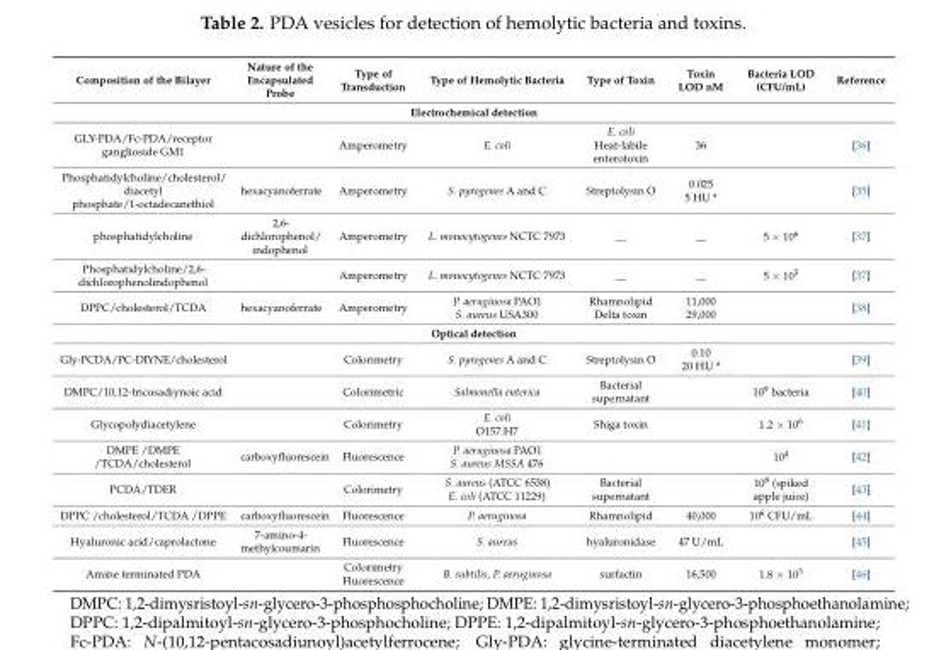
<table><thead><tr><td>Composition of the Bilayer</td><td>Nature of the Encapsulated Probe</td><td>Type of Transduction</td><td>Type of Hemolytic Bacteria</td><td>Type of Toxin</td><td>Toxin LOD nM</td><td>Bacteria LOD (CFU/mL)</td><td>Reference</td></tr></thead><tbody><tr><td colspan="8">Electrochemical detection</td></tr><tr><td>GLY-PDA/Fc-PDA/receptor ganglioside GM1</td><td></td><td>Amperometry</td><td>E. coli</td><td>E. coli Heat-labile enterotoxin</td><td>36</td><td></td><td>[36]</td></tr><tr><td>Phosphatidylcholine/cholesterol/ diacetyl phosphate/1-octadecanethiol</td><td>hexacyanoferrate</td><td>Amperometry</td><td>S. pyrogenes A and C</td><td>Streptolysin O</td><td>0.025 5 HU *</td><td></td><td>[35]</td></tr><tr><td>phosphatidylcholine</td><td>2,6- dichlorophenol/ indophenol</td><td>Amperometry</td><td>L. monocytogenes NCTC 7973</td><td>__</td><td>__</td><td>5 × 10<sup>6</sup></td><td>[37]</td></tr><tr><td>Phosphatidylcholine/2,6- dichlorophenolindophenol</td><td></td><td>Amperometry</td><td>L. monocytogenes NCTC 7973</td><td>__</td><td>__</td><td>5 × 10<sup>5</sup></td><td>[37]</td></tr><tr><td>DPPC/cholesterol/TCDA</td><td>hexacyanoferrate</td><td>Amperometry</td><td>P. aeruginosa PAO1 S. aureus USA300</td><td>Rhamnolipid Delta toxin</td><td>11,000 29,000</td><td></td><td>[38]</td></tr><tr><td colspan="8">Optical detection</td></tr><tr><td>Gly-PCDA/PC-DIYNE/cholesterol</td><td></td><td>Colorimetry</td><td>S. pyrogenes A and C</td><td>Streptolysin O</td><td>0.10 20 HU *</td><td></td><td>[39]</td></tr><tr><td>DMPC/10,12-tricosadiynoic acid</td><td></td><td>Colorimetric</td><td>Salmonella enterica</td><td>Bacterial supernatant</td><td></td><td>10<sup>9</sup> bacteria</td><td>[40]</td></tr><tr><td>Glycopolydiacetylene</td><td></td><td>Colorimetry</td><td>E. coli O157:H7</td><td>Shiga toxin</td><td></td><td>1.2 × 10<sup>6</sup></td><td>[41]</td></tr><tr><td>DMPE /DMPE /TCDA/cholesterol</td><td>carboxyfluorescein</td><td>Fluorescence</td><td>P. aeruginosa PAO1 S. aureus MSSA 476</td><td></td><td></td><td>10<sup>4</sup></td><td>[42]</td></tr><tr><td>PCDA/TDER</td><td></td><td>Colorimetry</td><td>S. aureus (ATCC 6538) E. coli (ATCC 11229)</td><td>Bacterial supernatant</td><td></td><td>10<sup>8</sup> (spiked apple juice)</td><td>[43]</td></tr><tr><td>DPPC /cholesterol/TCDA /DPPE</td><td>carboxyfluorescein</td><td>Fluorescence</td><td>P. aeruginosa</td><td>Rhamnolipid</td><td>40,000</td><td>10<sup>6</sup> CFU/mL</td><td>[44]</td></tr><tr><td>Hyaluronic acid/caprolactone</td><td>7-amino-4- methylcoumarin</td><td>Fluorescence</td><td>S. aureus</td><td>hyaluronidase</td><td>47 U/mL</td><td></td><td>[45]</td></tr><tr><td>Amine terminated PDA</td><td></td><td>Colorimetry Fluorescence</td><td>B. subtilis, P. aeruginosa</td><td>surfactin</td><td>16,500</td><td>1.8 × 10<sup>3</sup></td><td>[46]</td></tr></tbody></table>